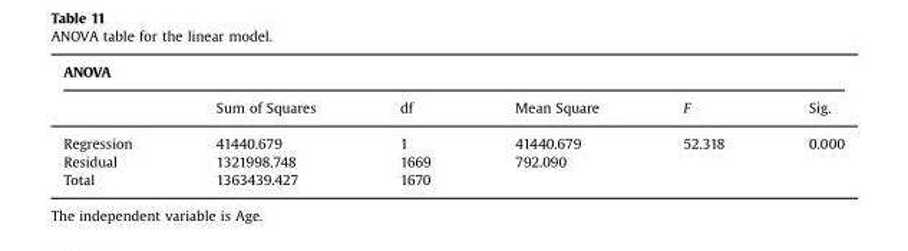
<table><thead><tr><td colspan="6">ANOVA</td></tr><tr><td></td><td>Sum of Squares</td><td>df</td><td>Mean Square</td><td>F</td><td>Sig.</td></tr></thead><tbody><tr><td>Regression</td><td>41440.679</td><td>1</td><td>41440.679</td><td>52.318</td><td>0.000</td></tr><tr><td>Residual</td><td>1321998.748</td><td>1669</td><td>792.090</td><td></td><td></td></tr><tr><td>Total</td><td>1363439.427</td><td>1670</td><td></td><td></td><td></td></tr></tbody></table>